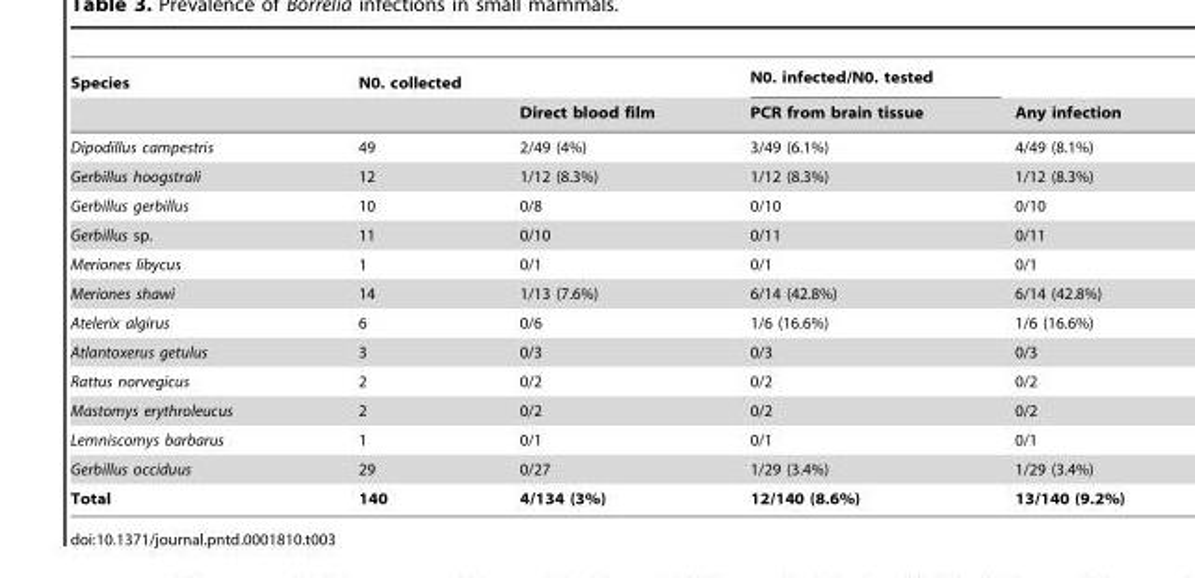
<table><thead><tr><td rowspan="2">Species</td><td rowspan="2">N0. collected</td><td rowspan="2">Direct blood film</td><td rowspan="2">N0. infected/N0. tested PCR from brain tissue</td><td rowspan="2">Any infection</td></tr><tr></tr></thead><tbody><tr><td>Dipodillus campestris</td><td>49</td><td>2/49 (4%)</td><td>3/49 (6.1%)</td><td>4/49 (8.1%)</td></tr><tr><td>Gerbillus hoogstrali</td><td>12</td><td>1/12 (8.3%)</td><td>1/12 (8.3%)</td><td>1/12 (8.3%)</td></tr><tr><td>Gerbillus gerbillus</td><td>10</td><td>0/8</td><td>0/10</td><td>0/10</td></tr><tr><td>Gerbillus sp.</td><td>11</td><td>0/10</td><td>0/11</td><td>0/11</td></tr><tr><td>Meriones libycus</td><td>1</td><td>0/1</td><td>0/1</td><td>0/1</td></tr><tr><td>Meriones shawi</td><td>14</td><td>1/13 (7.6%)</td><td>6/14 (42.8%)</td><td>6/14 (42.8%)</td></tr><tr><td>Atelerix algirus</td><td>6</td><td>0/6</td><td>1/6 (16.6%)</td><td>1/6 (16.6%)</td></tr><tr><td>Atlantoxerus getulus</td><td>3</td><td>0/3</td><td>0/3</td><td>0/3</td></tr><tr><td>Rattus norvegicus</td><td>2</td><td>0/2</td><td>0/2</td><td>0/2</td></tr><tr><td>Mastomys erythroleucus</td><td>2</td><td>0/2</td><td>0/2</td><td>0/2</td></tr><tr><td>Lemniscomys barbarus</td><td>1</td><td>0/1</td><td>0/1</td><td>0/1</td></tr><tr><td>Gerbillus occiduus</td><td>29</td><td>0/27</td><td>1/29 (3.4%)</td><td>1/29 (3.4%)</td></tr><tr><td>Total</td><td>140</td><td>4/134 (3%)</td><td>12/140 (8.6%)</td><td>13/140 (9.2%)</td></tr></tbody></table>